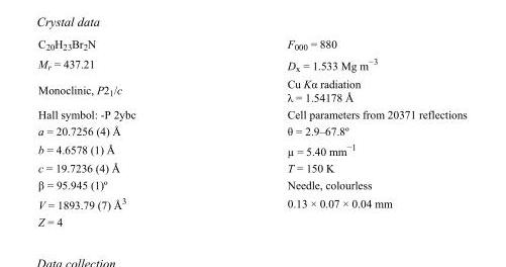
<table><tbody><tr><td>C<sub>20</sub>H<sub>23</sub>Br<sub>2</sub>N</td><td>F000 = 880</td></tr><tr><td>M<sub>r</sub> = 437.21</td><td>D<sub>x</sub> = 1.533 Mg m<sup>−3</sup></td></tr><tr><td>Monoclinic, P2<sub>1</sub>/c</td><td>Cu Kα radiation λ = 1.54178 Å</td></tr><tr><td>Hall symbol: -P 2ybc</td><td>Cell parameters from 20371 reflections</td></tr><tr><td>a = 20.7256 (4) Å</td><td>θ = 2.9–67.8º</td></tr><tr><td>b = 4.6578 (1) Å</td><td>µ = 5.40 mm<sup>−1</sup></td></tr><tr><td>c = 19.7236 (4) Å</td><td>T = 150 K</td></tr><tr><td>β = 95.945 (1)º</td><td>Needle, colourless</td></tr><tr><td>V = 1893.79 (7) Å<sup>3</sup></td><td>0.13 × 0.07 × 0.04 mm</td></tr><tr><td>Z = 4</td><td></td></tr></tbody></table>